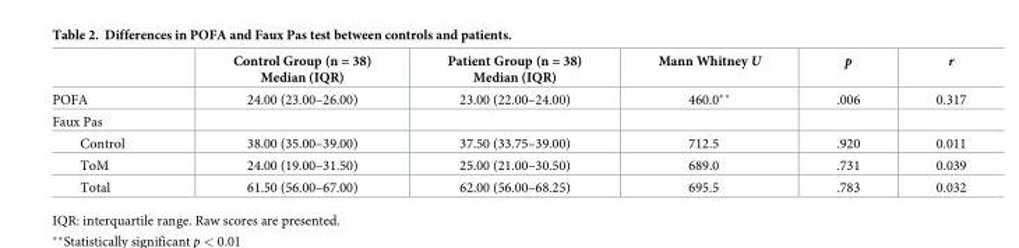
<table><thead><tr><td></td><td>Control Group (n = 38) Median (IQR)</td><td>Patient Group (n = 38) Median (IQR)</td><td>Mann Whitney U</td><td>p</td><td>r</td></tr></thead><tbody><tr><td>POFA</td><td>24.00 (23.00–26.00)</td><td>23.00 (22.00–24.00)</td><td>460.0**</td><td>.006</td><td>0.317</td></tr><tr><td colspan="6">Faux Pas</td></tr><tr><td>Control</td><td>38.00 (35.00–39.00)</td><td>37.50 (33.75–39.00)</td><td>712.5</td><td>.920</td><td>0.011</td></tr><tr><td>ToM</td><td>24.00 (19.00–31.50)</td><td>25.00 (21.00–30.50)</td><td>689.0</td><td>.731</td><td>0.039</td></tr><tr><td>Total</td><td>61.50 (56.00–67.00)</td><td>62.00 (56.00–68.25)</td><td>695.5</td><td>.783</td><td>0.032</td></tr></tbody></table>